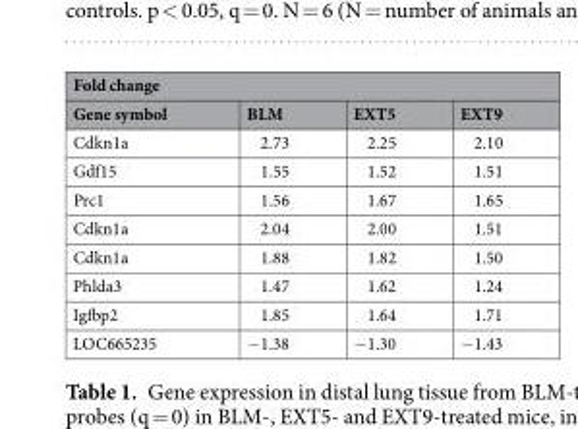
<table><thead><tr><td colspan="4">Fold change</td></tr><tr><td>Gene symbol</td><td>BLM</td><td>EXT5</td><td>EXT9</td></tr></thead><tbody><tr><td>Cdkn1a</td><td>2.73</td><td>2.25</td><td>2.10</td></tr><tr><td>Gdf15</td><td>1.55</td><td>1.52</td><td>1.51</td></tr><tr><td>Prc1</td><td>1.56</td><td>1.67</td><td>1.65</td></tr><tr><td>Cdkn1a</td><td>2.04</td><td>2.00</td><td>1.51</td></tr><tr><td>Cdkn1a</td><td>1.88</td><td>1.82</td><td>1.50</td></tr><tr><td>Phlda3</td><td>1.47</td><td>1.62</td><td>1.24</td></tr><tr><td>Igfbp2</td><td>1.85</td><td>1.64</td><td>1.71</td></tr><tr><td>LOC665235</td><td>−1.38</td><td>−1.30</td><td>−1.43</td></tr></tbody></table>